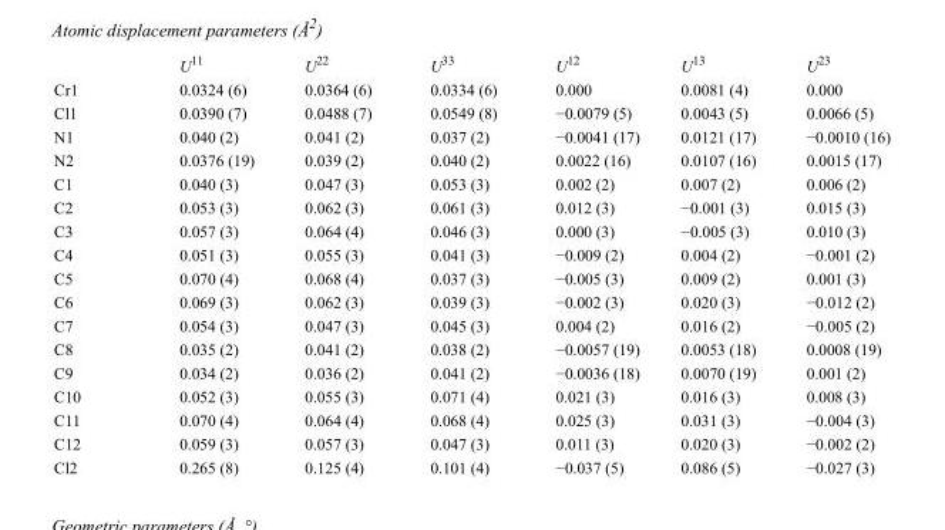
<table><thead><tr><td></td><td>U<sup>11</sup></td><td>U<sup>22</sup></td><td>U<sup>33</sup></td><td>U<sup>12</sup></td><td>U<sup>13</sup></td><td>U<sup>23</sup></td></tr></thead><tbody><tr><td>Cr1</td><td>0.0324 (6)</td><td>0.0364 (6)</td><td>0.0334 (6)</td><td>0.000</td><td>0.0081 (4)</td><td>0.000</td></tr><tr><td>Cl1</td><td>0.0390 (7)</td><td>0.0488 (7)</td><td>0.0549 (8)</td><td>−0.0079 (5)</td><td>0.0043 (5)</td><td>0.0066 (5)</td></tr><tr><td>N1</td><td>0.040 (2)</td><td>0.041 (2)</td><td>0.037 (2)</td><td>−0.0041 (17)</td><td>0.0121 (17)</td><td>−0.0010 (16)</td></tr><tr><td>N2</td><td>0.0376 (19)</td><td>0.039 (2)</td><td>0.040 (2)</td><td>0.0022 (16)</td><td>0.0107 (16)</td><td>0.0015 (17)</td></tr><tr><td>C1</td><td>0.040 (3)</td><td>0.047 (3)</td><td>0.053 (3)</td><td>0.002 (2)</td><td>0.007 (2)</td><td>0.006 (2)</td></tr><tr><td>C2</td><td>0.053 (3)</td><td>0.062 (3)</td><td>0.061 (3)</td><td>0.012 (3)</td><td>−0.001 (3)</td><td>0.015 (3)</td></tr><tr><td>C3</td><td>0.057 (3)</td><td>0.064 (4)</td><td>0.046 (3)</td><td>0.000 (3)</td><td>−0.005 (3)</td><td>0.010 (3)</td></tr><tr><td>C4</td><td>0.051 (3)</td><td>0.055 (3)</td><td>0.041 (3)</td><td>−0.009 (2)</td><td>0.004 (2)</td><td>−0.001 (2)</td></tr><tr><td>C5</td><td>0.070 (4)</td><td>0.068 (4)</td><td>0.037 (3)</td><td>−0.005 (3)</td><td>0.009 (2)</td><td>0.001 (3)</td></tr><tr><td>C6</td><td>0.069 (3)</td><td>0.062 (3)</td><td>0.039 (3)</td><td>−0.002 (3)</td><td>0.020 (3)</td><td>−0.012 (2)</td></tr><tr><td>C7</td><td>0.054 (3)</td><td>0.047 (3)</td><td>0.045 (3)</td><td>0.004 (2)</td><td>0.016 (2)</td><td>−0.005 (2)</td></tr><tr><td>C8</td><td>0.035 (2)</td><td>0.041 (2)</td><td>0.038 (2)</td><td>−0.0057 (19)</td><td>0.0053 (18)</td><td>0.0008 (19)</td></tr><tr><td>C9</td><td>0.034 (2)</td><td>0.036 (2)</td><td>0.041 (2)</td><td>−0.0036 (18)</td><td>0.0070 (19)</td><td>0.001 (2)</td></tr><tr><td>C10</td><td>0.052 (3)</td><td>0.055 (3)</td><td>0.071 (4)</td><td>0.021 (3)</td><td>0.016 (3)</td><td>0.008 (3)</td></tr><tr><td>C11</td><td>0.070 (4)</td><td>0.064 (4)</td><td>0.068 (4)</td><td>0.025 (3)</td><td>0.031 (3)</td><td>−0.004 (3)</td></tr><tr><td>C12</td><td>0.059 (3)</td><td>0.057 (3)</td><td>0.047 (3)</td><td>0.011 (3)</td><td>0.020 (3)</td><td>−0.002 (2)</td></tr><tr><td>Cl2</td><td>0.265 (8)</td><td>0.125 (4)</td><td>0.101 (4)</td><td>−0.037 (5)</td><td>0.086 (5)</td><td>−0.027 (3)</td></tr></tbody></table>